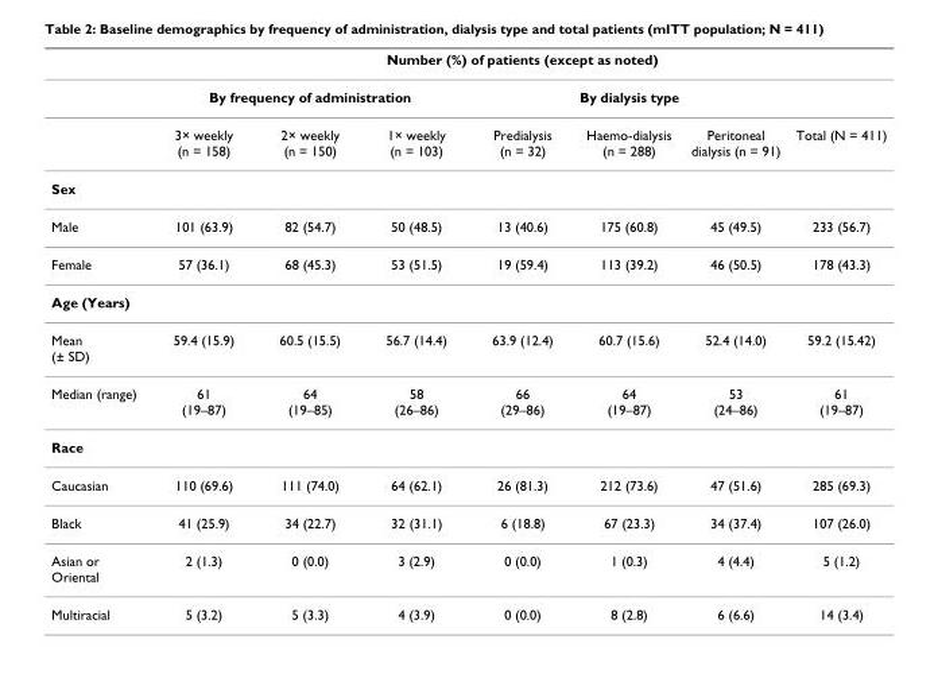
<table><thead><tr><td rowspan="3"></td><td colspan="7">Number (%) of patients (except as noted)</td></tr><tr><td colspan="3">By frequency of administration</td><td colspan="3">By dialysis type</td><td rowspan="2">Total (N = 411)</td></tr><tr><td>3× weekly (n = 158)</td><td>2× weekly (n = 150)</td><td>1× weekly (n = 103)</td><td>Predialysis (n = 32)</td><td>Haemo-dialysis (n = 288)</td><td>Peritoneal dialysis (n = 91)</td></tr></thead><tbody><tr><td colspan="8">Sex</td></tr><tr><td>Male</td><td>101 (63.9)</td><td>82 (54.7)</td><td>50 (48.5)</td><td>13 (40.6)</td><td>175 (60.8)</td><td>45 (49.5)</td><td>233 (56.7)</td></tr><tr><td>Female</td><td>57 (36.1)</td><td>68 (45.3)</td><td>53 (51.5)</td><td>19 (59.4)</td><td>113 (39.2)</td><td>46 (50.5)</td><td>178 (43.3)</td></tr><tr><td colspan="8">Age (Years)</td></tr><tr><td>Mean (± SD)</td><td>59.4 (15.9)</td><td>60.5 (15.5)</td><td>56.7 (14.4)</td><td>63.9 (12.4)</td><td>60.7 (15.6)</td><td>52.4 (14.0)</td><td>59.2 (15.42)</td></tr><tr><td>Median (range)</td><td>61 (19–87)</td><td>64 (19–85)</td><td>58 (26–86)</td><td>66 (29–86)</td><td>64 (19–87)</td><td>53 (24–86)</td><td>61 (19–87)</td></tr><tr><td colspan="8">Race</td></tr><tr><td>Caucasian</td><td>110 (69.6)</td><td>111 (74.0)</td><td>64 (62.1)</td><td>26 (81.3)</td><td>212 (73.6)</td><td>47 (51.6)</td><td>285 (69.3)</td></tr><tr><td>Black</td><td>41 (25.9)</td><td>34 (22.7)</td><td>32 (31.1)</td><td>6 (18.8)</td><td>67 (23.3)</td><td>34 (37.4)</td><td>107 (26.0)</td></tr><tr><td>Asian or Oriental</td><td>2 (1.3)</td><td>0 (0.0)</td><td>3 (2.9)</td><td>0 (0.0)</td><td>1 (0.3)</td><td>4 (4.4)</td><td>5 (1.2)</td></tr><tr><td>Multiracial</td><td>5 (3.2)</td><td>5 (3.3)</td><td>4 (3.9)</td><td>0 (0.0)</td><td>8 (2.8)</td><td>6 (6.6)</td><td>14 (3.4)</td></tr></tbody></table>